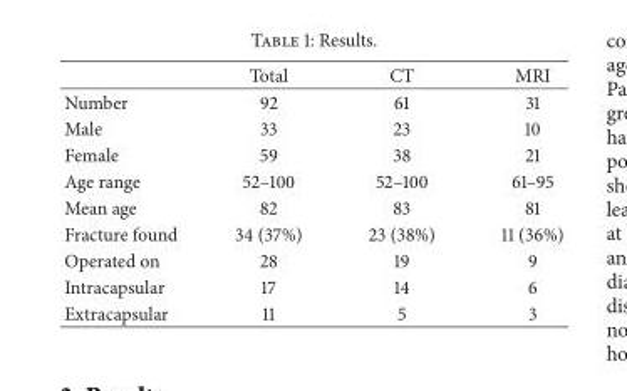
<table><thead><tr><td></td><td>Total</td><td>CT</td><td>MRI</td></tr></thead><tbody><tr><td>Number</td><td>92</td><td>61</td><td>31</td></tr><tr><td>Male</td><td>33</td><td>23</td><td>10</td></tr><tr><td>Female</td><td>59</td><td>38</td><td>21</td></tr><tr><td>Age range</td><td>52–100</td><td>52–100</td><td>61–95</td></tr><tr><td>Mean age</td><td>82</td><td>83</td><td>81</td></tr><tr><td>Fracture found</td><td>34 (37%)</td><td>23 (38%)</td><td>11 (36%)</td></tr><tr><td>Operated on</td><td>28</td><td>19</td><td>9</td></tr><tr><td>Intracapsular</td><td>17</td><td>14</td><td>6</td></tr><tr><td>Extracapsular</td><td>11</td><td>5</td><td>3</td></tr></tbody></table>